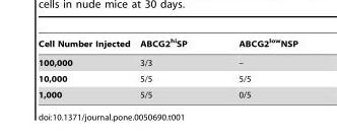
<table><thead><tr><td>Cell Number Injected</td><td>ABCG2<sup>hi</sup>SP</td><td>ABCG2<sup>low</sup>NSP</td></tr></thead><tbody><tr><td>100,000</td><td>3/3</td><td>–</td></tr><tr><td>10,000</td><td>5/5</td><td>5/5</td></tr><tr><td>1,000</td><td>5/5</td><td>0/5</td></tr></tbody></table>